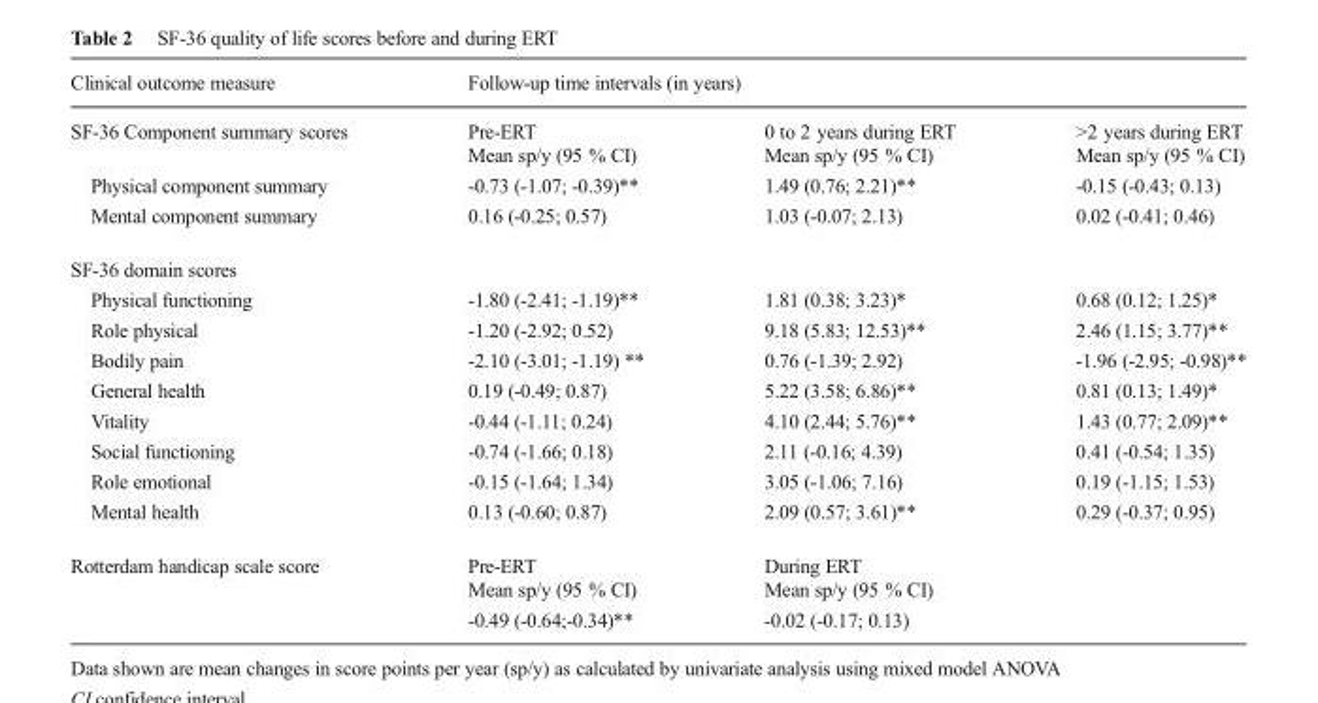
<table><thead><tr><td rowspan="2">Clinical outcome measure SF-36 Component summary scores</td><td colspan="3">Follow-up time intervals (in years)</td></tr><tr><td>Pre-ERT Mean sp/y (95 % CI)</td><td>0 to 2 years during ERT Mean sp/y (95 % CI)</td><td>&gt;2 years during ERT Mean sp/y (95 % CI)</td></tr></thead><tbody><tr><td>Physical component summary</td><td>-0.73 (-1.07; -0.39)**</td><td>1.49 (0.76; 2.21)**</td><td>-0.15 (-0.43; 0.13)</td></tr><tr><td>Mental component summary</td><td>0.16 (-0.25; 0.57)</td><td>1.03 (-0.07; 2.13)</td><td>0.02 (-0.41; 0.46)</td></tr><tr><td colspan="4">SF-36 domain scores</td></tr><tr><td>Physical functioning</td><td>-1.80 (-2.41; -1.19)**</td><td>1.81 (0.38; 3.23)*</td><td>0.68 (0.12; 1.25)*</td></tr><tr><td>Role physical</td><td>-1.20 (-2.92; 0.52)</td><td>9.18 (5.83; 12.53)**</td><td>2.46 (1.15; 3.77)**</td></tr><tr><td>Bodily pain</td><td>-2.10 (-3.01; -1.19) **</td><td>0.76 (-1.39; 2.92)</td><td>-1.96 (-2.95; -0.98)**</td></tr><tr><td>General health</td><td>0.19 (-0.49; 0.87)</td><td>5.22 (3.58; 6.86)**</td><td>0.81 (0.13; 1.49)*</td></tr><tr><td>Vitality</td><td>-0.44 (-1.11; 0.24)</td><td>4.10 (2.44; 5.76)**</td><td>1.43 (0.77; 2.09)**</td></tr><tr><td>Social functioning</td><td>-0.74 (-1.66; 0.18)</td><td>2.11 (-0.16; 4.39)</td><td>0.41 (-0.54; 1.35)</td></tr><tr><td>Role emotional</td><td>-0.15 (-1.64; 1.34)</td><td>3.05 (-1.06; 7.16)</td><td>0.19 (-1.15; 1.53)</td></tr><tr><td>Mental health</td><td>0.13 (-0.60; 0.87)</td><td>2.09 (0.57; 3.61)**</td><td>0.29 (-0.37; 0.95)</td></tr><tr><td rowspan="2">Rotterdam handicap scale score</td><td>Pre-ERT Mean sp/y (95 % CI)</td><td colspan="2">During ERT Mean sp/y (95 % CI)</td></tr><tr><td>-0.49 (-0.64;-0.34)**</td><td colspan="2">-0.02 (-0.17; 0.13)</td></tr></tbody></table>